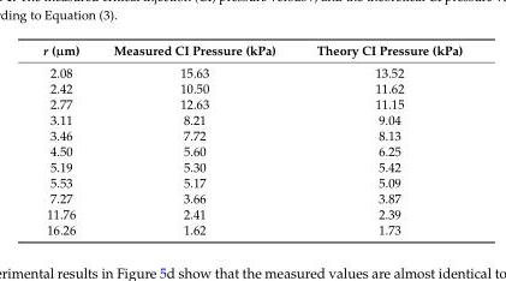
<table><thead><tr><td>r (µm)</td><td>Measured CI Pressure (kPa)</td><td>Theory CI Pressure (kPa)</td></tr></thead><tbody><tr><td>2.08</td><td>15.63</td><td>13.52</td></tr><tr><td>2.42</td><td>10.50</td><td>11.62</td></tr><tr><td>2.77</td><td>12.63</td><td>11.15</td></tr><tr><td>3.11</td><td>8.21</td><td>9.04</td></tr><tr><td>3.46</td><td>7.72</td><td>8.13</td></tr><tr><td>4.50</td><td>5.60</td><td>6.25</td></tr><tr><td>5.19</td><td>5.30</td><td>5.42</td></tr><tr><td>5.53</td><td>5.17</td><td>5.09</td></tr><tr><td>7.27</td><td>3.66</td><td>3.87</td></tr><tr><td>11.76</td><td>2.41</td><td>2.39</td></tr><tr><td>16.26</td><td>1.62</td><td>1.73</td></tr></tbody></table>